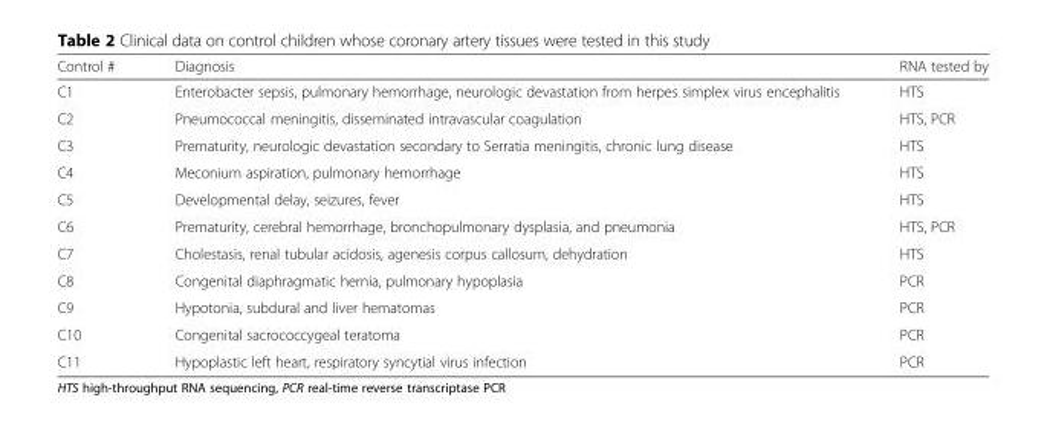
<table><thead><tr><td>Control #</td><td>Diagnosis</td><td>RNA tested by</td></tr></thead><tbody><tr><td>C1</td><td>Enterobacter sepsis, pulmonary hemorrhage, neurologic devastation from herpes simplex virus encephalitis</td><td>HTS</td></tr><tr><td>C2</td><td>Pneumococcal meningitis, disseminated intravascular coagulation</td><td>HTS, PCR</td></tr><tr><td>C3</td><td>Prematurity, neurologic devastation secondary to Serratia meningitis, chronic lung disease</td><td>HTS</td></tr><tr><td>C4</td><td>Meconium aspiration, pulmonary hemorrhage</td><td>HTS</td></tr><tr><td>C5</td><td>Developmental delay, seizures, fever</td><td>HTS</td></tr><tr><td>C6</td><td>Prematurity, cerebral hemorrhage, bronchopulmonary dysplasia, and pneumonia</td><td>HTS, PCR</td></tr><tr><td>C7</td><td>Cholestasis, renal tubular acidosis, agenesis corpus callosum, dehydration</td><td>HTS</td></tr><tr><td>C8</td><td>Congenital diaphragmatic hernia, pulmonary hypoplasia</td><td>PCR</td></tr><tr><td>C9</td><td>Hypotonia, subdural and liver hematomas</td><td>PCR</td></tr><tr><td>C10</td><td>Congenital sacrococcygeal teratoma</td><td>PCR</td></tr><tr><td>C11</td><td>Hypoplastic left heart, respiratory syncytial virus infection</td><td>PCR</td></tr></tbody></table>